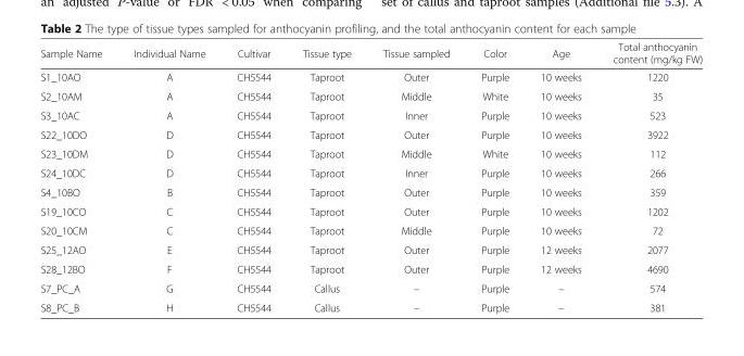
<table><thead><tr><td>Sample Name</td><td>Individual Name</td><td>Cultivar</td><td>Tissue type</td><td>Tissue sampled</td><td>Color</td><td>Age</td><td>Total anthocyanin content (mg/kg FW)</td></tr></thead><tbody><tr><td>S1_10AO</td><td>A</td><td>CH5544</td><td>Taproot</td><td>Outer</td><td>Purple</td><td>10 weeks</td><td>1220</td></tr><tr><td>S2_10AM</td><td>A</td><td>CH5544</td><td>Taproot</td><td>Middle</td><td>White</td><td>10 weeks</td><td>35</td></tr><tr><td>S3_10AC</td><td>A</td><td>CH5544</td><td>Taproot</td><td>Inner</td><td>Purple</td><td>10 weeks</td><td>523</td></tr><tr><td>S22_10DO</td><td>D</td><td>CH5544</td><td>Taproot</td><td>Outer</td><td>Purple</td><td>10 weeks</td><td>3922</td></tr><tr><td>S23_10DM</td><td>D</td><td>CH5544</td><td>Taproot</td><td>Middle</td><td>White</td><td>10 weeks</td><td>112</td></tr><tr><td>S24_10DC</td><td>D</td><td>CH5544</td><td>Taproot</td><td>Inner</td><td>Purple</td><td>10 weeks</td><td>266</td></tr><tr><td>S4_10BO</td><td>B</td><td>CH5544</td><td>Taproot</td><td>Outer</td><td>Purple</td><td>10 weeks</td><td>359</td></tr><tr><td>S19_10CO</td><td>C</td><td>CH5544</td><td>Taproot</td><td>Outer</td><td>Purple</td><td>10 weeks</td><td>1202</td></tr><tr><td>S20_10CM</td><td>C</td><td>CH5544</td><td>Taproot</td><td>Middle</td><td>Purple</td><td>10 weeks</td><td>72</td></tr><tr><td>S25_12AO</td><td>E</td><td>CH5544</td><td>Taproot</td><td>Outer</td><td>Purple</td><td>12 weeks</td><td>2077</td></tr><tr><td>S28_12BO</td><td>F</td><td>CH5544</td><td>Taproot</td><td>Outer</td><td>Purple</td><td>12 weeks</td><td>4690</td></tr><tr><td>S7_PC_A</td><td>G</td><td>CH5544</td><td>Callus</td><td>–</td><td>Purple</td><td>–</td><td>574</td></tr><tr><td>S8_PC_B</td><td>H</td><td>CH5544</td><td>Callus</td><td>–</td><td>Purple</td><td>–</td><td>381</td></tr></tbody></table>